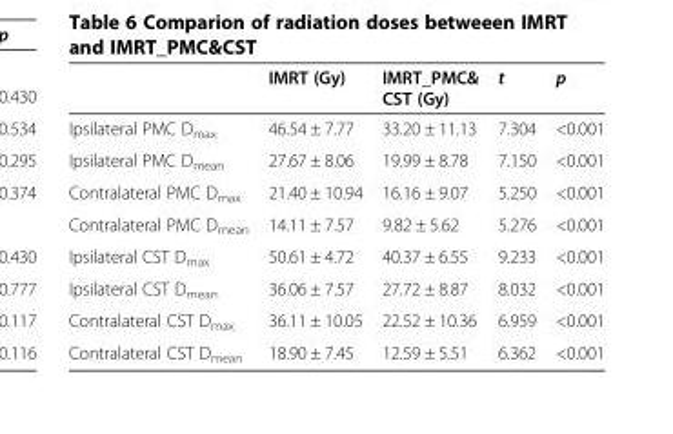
<table><thead><tr><td></td><td>IMRT (Gy)</td><td>IMRT_PMC&amp; CST (Gy)</td><td>t</td><td>p</td></tr></thead><tbody><tr><td>Ipsilateral PMC D<sub>max</sub></td><td>46.54 ± 7.77</td><td>33.20 ± 11.13</td><td>7.304</td><td>&lt;0.001</td></tr><tr><td>Ipsilateral PMC D<sub>mean</sub></td><td>27.67 ± 8.06</td><td>19.99 ± 8.78</td><td>7.150</td><td>&lt;0.001</td></tr><tr><td>Contralateral PMC D<sub>max</sub></td><td>21.40 ± 10.94</td><td>16.16 ± 9.07</td><td>5.250</td><td>&lt;0.001</td></tr><tr><td>Contralateral PMC D<sub>mean</sub></td><td>14.11 ± 7.57</td><td>9.82 ± 5.62</td><td>5.276</td><td>&lt;0.001</td></tr><tr><td>Ipsilateral CST D<sub>max</sub></td><td>50.61 ± 4.72</td><td>40.37 ± 6.55</td><td>9.233</td><td>&lt;0.001</td></tr><tr><td>Ipsilateral CST D<sub>mean</sub></td><td>36.06 ± 7.57</td><td>27.72 ± 8.87</td><td>8.032</td><td>&lt;0.001</td></tr><tr><td>Contralateral CST D<sub>max</sub></td><td>36.11 ± 10.05</td><td>22.52 ± 10.36</td><td>6.959</td><td>&lt;0.001</td></tr><tr><td>Contralateral CST D<sub>mean</sub></td><td>18.90 ± 7.45</td><td>12.59 ± 5.51</td><td>6.362</td><td>&lt;0.001</td></tr></tbody></table>